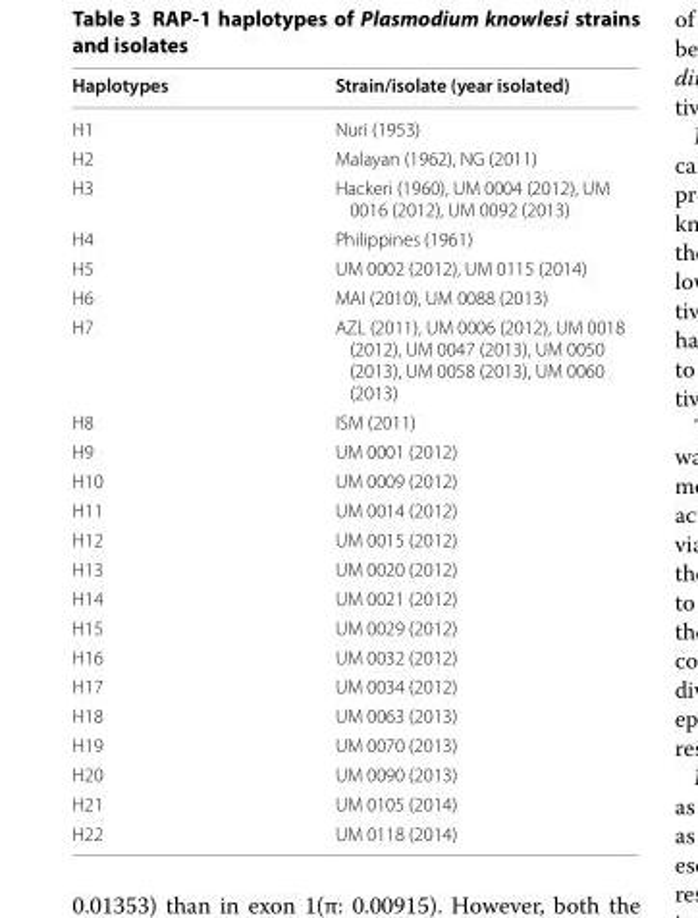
<table><thead><tr><td>Haplotypes</td><td>Strain/isolate (year isolated)</td></tr></thead><tbody><tr><td>H1</td><td>Nuri (1953)</td></tr><tr><td>H2</td><td>Malayan (1962), NG (2011)</td></tr><tr><td>H3</td><td>Hackeri (1960), UM 0004 (2012), UM 0016 (2012), UM 0092 (2013)</td></tr><tr><td>H4</td><td>Philippines (1961)</td></tr><tr><td>H5</td><td>UM 0002 (2012), UM 0115 (2014)</td></tr><tr><td>H6</td><td>MAI (2010), UM 0088 (2013)</td></tr><tr><td>H7</td><td>AZL (2011), UM 0006 (2012), UM 0018 (2012), UM 0047 (2013), UM 0050 (2013), UM 0058 (2013), UM 0060 (2013)</td></tr><tr><td>H8</td><td>ISM (2011)</td></tr><tr><td>H9</td><td>UM 0001 (2012)</td></tr><tr><td>H10</td><td>UM 0009 (2012)</td></tr><tr><td>H11</td><td>UM 0014 (2012)</td></tr><tr><td>H12</td><td>UM 0015 (2012)</td></tr><tr><td>H13</td><td>UM 0020 (2012)</td></tr><tr><td>H14</td><td>UM 0021 (2012)</td></tr><tr><td>H15</td><td>UM 0029 (2012)</td></tr><tr><td>H16</td><td>UM 0032 (2012)</td></tr><tr><td>H17</td><td>UM 0034 (2012)</td></tr><tr><td>H18</td><td>UM 0063 (2013)</td></tr><tr><td>H19</td><td>UM 0070 (2013)</td></tr><tr><td>H20</td><td>UM 0090 (2013)</td></tr><tr><td>H21</td><td>UM 0105 (2014)</td></tr><tr><td>H22</td><td>UM 0118 (2014)</td></tr></tbody></table>